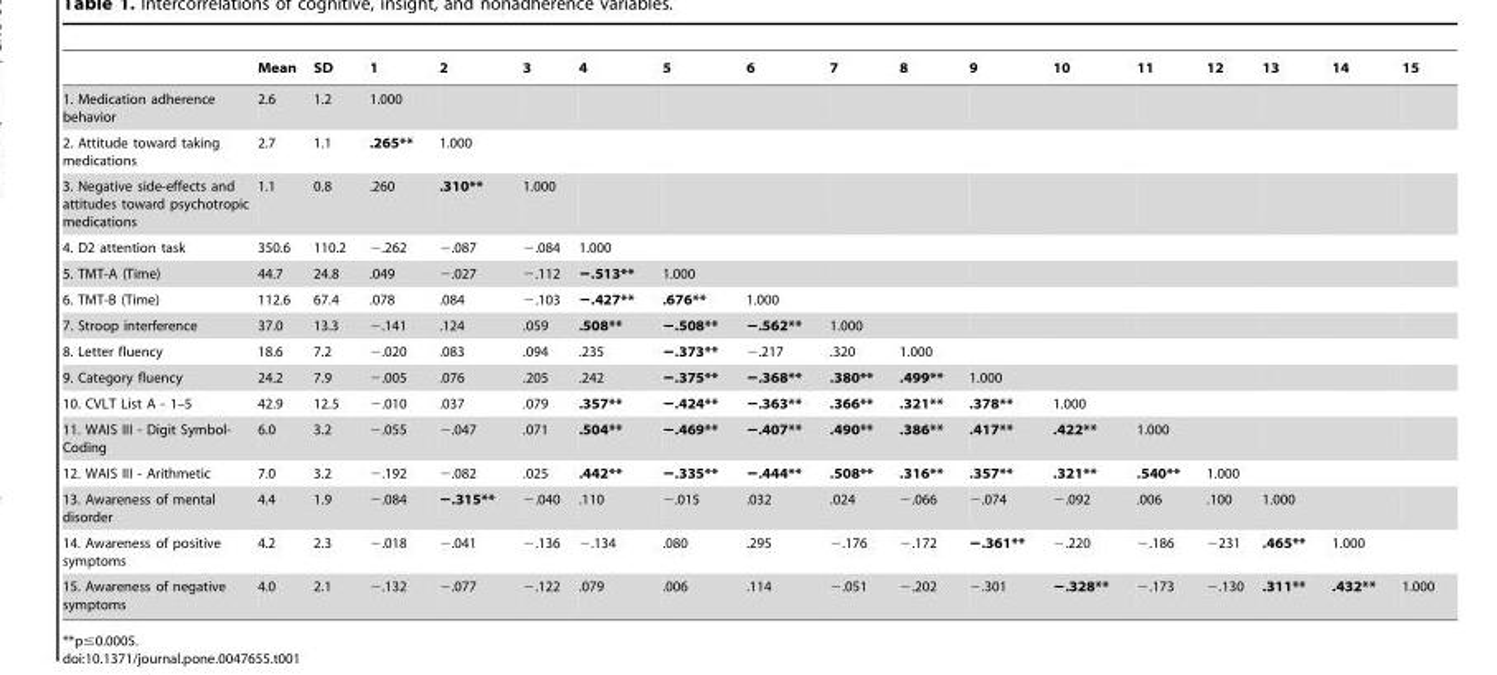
<table><thead><tr><td></td><td>Mean</td><td>SD</td><td>1</td><td>2</td><td>3</td><td>4</td><td>5</td><td>6</td><td>7</td><td>8</td><td>9</td><td>10</td><td>11</td><td>12</td><td>13</td><td>14</td><td>15</td></tr></thead><tbody><tr><td>1. Medication adherence behavior</td><td>2.6</td><td>1.2</td><td>1.000</td><td></td><td></td><td></td><td></td><td></td><td></td><td></td><td></td><td></td><td></td><td></td><td></td><td></td><td></td></tr><tr><td>2. Attitude toward taking medications</td><td>2.7</td><td>1.1</td><td>.265**</td><td>1.000</td><td></td><td></td><td></td><td></td><td></td><td></td><td></td><td></td><td></td><td></td><td></td><td></td><td></td></tr><tr><td>3. Negative side-effects and attitudes toward psychotropic medications</td><td>1.1</td><td>0.8</td><td>.260</td><td>.310**</td><td>1.000</td><td></td><td></td><td></td><td></td><td></td><td></td><td></td><td></td><td></td><td></td><td></td><td></td></tr><tr><td>4. D2 attention task</td><td>350.6</td><td>110.2</td><td>−.262</td><td>−.087</td><td>−.084</td><td>1.000</td><td></td><td></td><td></td><td></td><td></td><td></td><td></td><td></td><td></td><td></td><td></td></tr><tr><td>5. TMT-A (Time)</td><td>44.7</td><td>24.8</td><td>.049</td><td>−.027</td><td>−.112</td><td>−.513**</td><td>1.000</td><td></td><td></td><td></td><td></td><td></td><td></td><td></td><td></td><td></td><td></td></tr><tr><td>6. TMT-B (Time)</td><td>112.6</td><td>67.4</td><td>.078</td><td>.084</td><td>−.103</td><td>−.427**</td><td>.676**</td><td>1.000</td><td></td><td></td><td></td><td></td><td></td><td></td><td></td><td></td><td></td></tr><tr><td>7. Stroop interference</td><td>37.0</td><td>13.3</td><td>−.141</td><td>.124</td><td>.059</td><td>.508**</td><td>−.508**</td><td>−.562**</td><td>1.000</td><td></td><td></td><td></td><td></td><td></td><td></td><td></td><td></td></tr><tr><td>8. Letter fluency</td><td>18.6</td><td>7.2</td><td>−.020</td><td>.083</td><td>.094</td><td>.235</td><td>−.373**</td><td>−.217</td><td>.320</td><td>1.000</td><td></td><td></td><td></td><td></td><td></td><td></td><td></td></tr><tr><td>9. Category fluency</td><td>24.2</td><td>7.9</td><td>−.005</td><td>.076</td><td>.205</td><td>.242</td><td>−.375**</td><td>−.368**</td><td>.380**</td><td>.499**</td><td>1.000</td><td></td><td></td><td></td><td></td><td></td><td></td></tr><tr><td>10. CVLT List A - 1–5</td><td>42.9</td><td>12.5</td><td>−.010</td><td>.037</td><td>.079</td><td>.357**</td><td>−.424**</td><td>−.363**</td><td>.366**</td><td>.321**</td><td>.378**</td><td>1.000</td><td></td><td></td><td></td><td></td><td></td></tr><tr><td>11. WAIS III - Digit Symbol- Coding</td><td>6.0</td><td>3.2</td><td>−.055</td><td>−.047</td><td>.071</td><td>.504**</td><td>−.469**</td><td>−.407**</td><td>.490**</td><td>.386**</td><td>.417**</td><td>.422**</td><td>1.000</td><td></td><td></td><td></td><td></td></tr><tr><td>12. WAIS III - Arithmetic</td><td>7.0</td><td>3.2</td><td>−.192</td><td>−.082</td><td>.025</td><td>.442**</td><td>−.335**</td><td>−.444**</td><td>.508**</td><td>.316**</td><td>.357**</td><td>.321**</td><td>.540**</td><td>1.000</td><td></td><td></td><td></td></tr><tr><td>13. Awareness of mental disorder</td><td>4.4</td><td>1.9</td><td>−.084</td><td>−.315**</td><td>−.040</td><td>.110</td><td>−.015</td><td>.032</td><td>.024</td><td>−.066</td><td>−.074</td><td>−.092</td><td>.006</td><td>.100</td><td>1.000</td><td></td><td></td></tr><tr><td>14. Awareness of positive symptoms</td><td>4.2</td><td>2.3</td><td>−.018</td><td>−.041</td><td>−.136</td><td>−.134</td><td>.080</td><td>.295</td><td>−.176</td><td>−.172</td><td>−.361**</td><td>−.220</td><td>−.186</td><td>−231</td><td>.465**</td><td>1.000</td><td></td></tr><tr><td>15. Awareness of negative symptoms</td><td>4.0</td><td>2.1</td><td>−.132</td><td>−.077</td><td>−.122</td><td>.079</td><td>.006</td><td>.114</td><td>−.051</td><td>−.202</td><td>−.301</td><td>−.328**</td><td>−.173</td><td>−.130</td><td>.311**</td><td>.432**</td><td>1.000</td></tr></tbody></table>